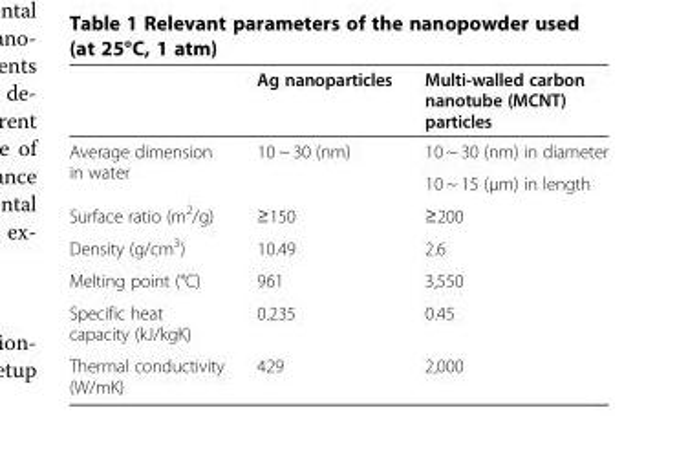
<table><thead><tr><td></td><td>Ag nanoparticles</td><td>Multi-walled carbon nanotube (MCNT) particles</td></tr></thead><tbody><tr><td rowspan="2">Average dimension in water</td><td rowspan="2">10 ~ 30 (nm)</td><td>10 ~ 30 (nm) in diameter</td></tr><tr><td>10 ~ 15 (μm) in length</td></tr><tr><td>Surface ratio (m<sup>2</sup>/g)</td><td>≥150</td><td>≥200</td></tr><tr><td>Density (g/cm<sup>3</sup>)</td><td>10.49</td><td>2.6</td></tr><tr><td>Melting point (°C)</td><td>961</td><td>3,550</td></tr><tr><td>Specific heat capacity (kJ/kgK)</td><td>0.235</td><td>0.45</td></tr><tr><td>Thermal conductivity (W/mK)</td><td>429</td><td>2,000</td></tr></tbody></table>